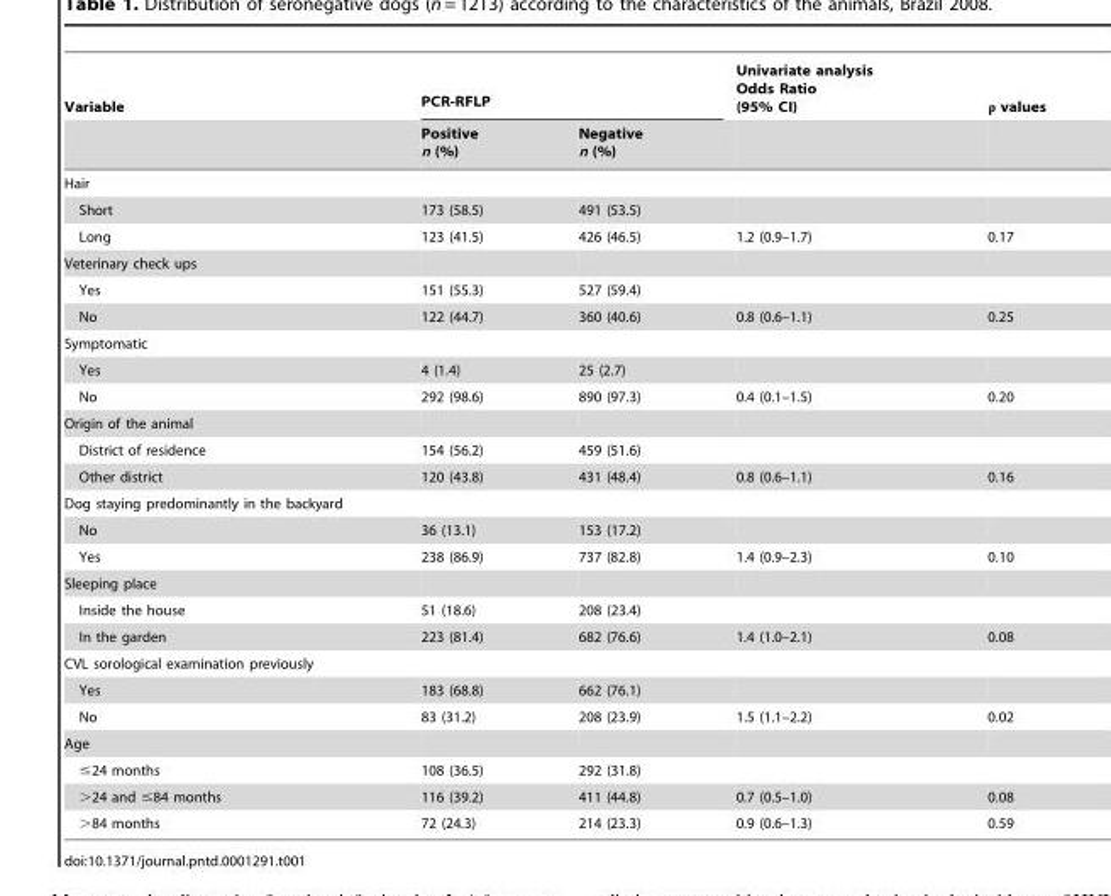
<table><thead><tr><td rowspan="2">Variable</td><td colspan="2">PCR-RFLP</td><td rowspan="2">Univariate analysis Odds Ratio (95% CI)</td><td rowspan="2">ρ values</td></tr><tr><td>Positive n (%)</td><td>Negative n (%)</td></tr></thead><tbody><tr><td colspan="5">Hair</td></tr><tr><td>Short</td><td>173 (58.5)</td><td>491 (53.5)</td><td></td><td></td></tr><tr><td>Long</td><td>123 (41.5)</td><td>426 (46.5)</td><td>1.2 (0.9–1.7)</td><td>0.17</td></tr><tr><td colspan="5">Veterinary check ups</td></tr><tr><td>Yes</td><td>151 (55.3)</td><td>527 (59.4)</td><td></td><td></td></tr><tr><td>No</td><td>122 (44.7)</td><td>360 (40.6)</td><td>0.8 (0.6–1.1)</td><td>0.25</td></tr><tr><td colspan="5">Symptomatic</td></tr><tr><td>Yes</td><td>4 (1.4)</td><td>25 (2.7)</td><td></td><td></td></tr><tr><td>No</td><td>292 (98.6)</td><td>890 (97.3)</td><td>0.4 (0.1–1.5)</td><td>0.20</td></tr><tr><td colspan="5">Origin of the animal</td></tr><tr><td>District of residence</td><td>154 (56.2)</td><td>459 (51.6)</td><td></td><td></td></tr><tr><td>Other district</td><td>120 (43.8)</td><td>431 (48.4)</td><td>0.8 (0.6–1.1)</td><td>0.16</td></tr><tr><td colspan="5">Dog staying predominantly in the backyard</td></tr><tr><td>No</td><td>36 (13.1)</td><td>153 (17.2)</td><td></td><td></td></tr><tr><td>Yes</td><td>238 (86.9)</td><td>737 (82.8)</td><td>1.4 (0.9–2.3)</td><td>0.10</td></tr><tr><td colspan="5">Sleeping place</td></tr><tr><td>Inside the house</td><td>51 (18.6)</td><td>208 (23.4)</td><td></td><td></td></tr><tr><td>In the garden</td><td>223 (81.4)</td><td>682 (76.6)</td><td>1.4 (1.0–2.1)</td><td>0.08</td></tr><tr><td colspan="5">CVL sorological examination previously</td></tr><tr><td>Yes</td><td>183 (68.8)</td><td>662 (76.1)</td><td></td><td></td></tr><tr><td>No</td><td>83 (31.2)</td><td>208 (23.9)</td><td>1.5 (1.1–2.2)</td><td>0.02</td></tr><tr><td colspan="5">Age</td></tr><tr><td>≤24 months</td><td>108 (36.5)</td><td>292 (31.8)</td><td></td><td></td></tr><tr><td>&gt;24 and ≤84 months</td><td>116 (39.2)</td><td>411 (44.8)</td><td>0.7 (0.5–1.0)</td><td>0.08</td></tr><tr><td>&gt;84 months</td><td>72 (24.3)</td><td>214 (23.3)</td><td>0.9 (0.6–1.3)</td><td>0.59</td></tr></tbody></table>